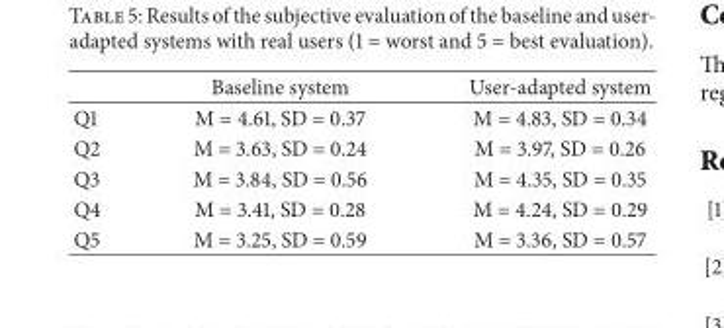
<table><thead><tr><td></td><td>Baseline system</td><td>User-adapted system</td></tr></thead><tbody><tr><td>Q1</td><td>M = 4.61, SD = 0.37</td><td>M = 4.83, SD = 0.34</td></tr><tr><td>Q2</td><td>M = 3.63, SD = 0.24</td><td>M = 3.97, SD = 0.26</td></tr><tr><td>Q3</td><td>M = 3.84, SD = 0.56</td><td>M = 4.35, SD = 0.35</td></tr><tr><td>Q4</td><td>M = 3.41, SD = 0.28</td><td>M = 4.24, SD = 0.29</td></tr><tr><td>Q5</td><td>M = 3.25, SD = 0.59</td><td>M = 3.36, SD = 0.57</td></tr></tbody></table>